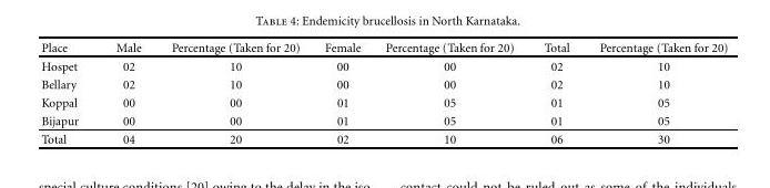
<table><thead><tr><td>Place</td><td>Male</td><td>Percentage (Taken for 20)</td><td>Female</td><td>Percentage (Taken for 20)</td><td>Total</td><td>Percentage (Taken for 20)</td></tr></thead><tbody><tr><td>Hospet</td><td>02</td><td>10</td><td>00</td><td>00</td><td>02</td><td>10</td></tr><tr><td>Bellary</td><td>02</td><td>10</td><td>00</td><td>00</td><td>02</td><td>10</td></tr><tr><td>Koppal</td><td>00</td><td>00</td><td>01</td><td>05</td><td>01</td><td>05</td></tr><tr><td>Bijapur</td><td>00</td><td>00</td><td>01</td><td>05</td><td>01</td><td>05</td></tr><tr><td>Total</td><td>04</td><td>20</td><td>02</td><td>10</td><td>06</td><td>30</td></tr></tbody></table>